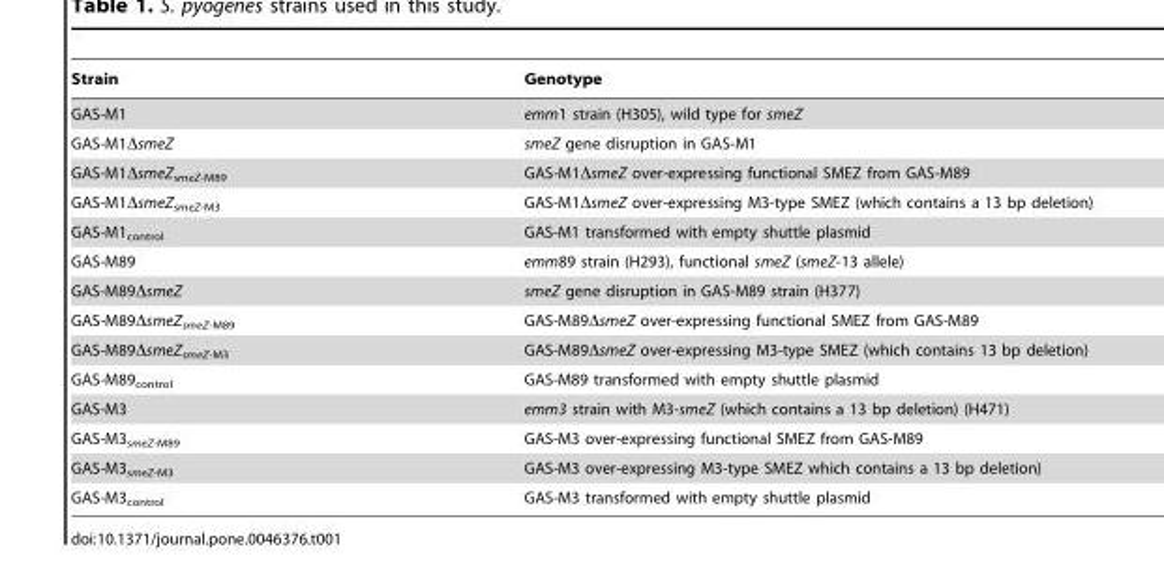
<table><thead><tr><td>Strain</td><td>Genotype</td></tr></thead><tbody><tr><td>GAS-M1</td><td>emm1 strain (H305), wild type for smeZ</td></tr><tr><td>GAS-M1ΔsmeZ</td><td>smeZ gene disruption in GAS-M1</td></tr><tr><td>GAS-M1ΔsmeZ<sub>smeZ-M89</sub></td><td>GAS-M1ΔsmeZ over-expressing functional SMEZ from GAS-M89</td></tr><tr><td>GAS-M1ΔsmeZ<sub>smeZ-M3</sub></td><td>GAS-M1ΔsmeZ over-expressing M3-type SMEZ (which contains a 13 bp deletion)</td></tr><tr><td>GAS-M1<sub>control</sub></td><td>GAS-M1 transformed with empty shuttle plasmid</td></tr><tr><td>GAS-M89</td><td>emm89 strain (H293), functional smeZ (smeZ-13 allele)</td></tr><tr><td>GAS-M89ΔsmeZ</td><td>smeZ gene disruption in GAS-M89 strain (H377)</td></tr><tr><td>GAS-M89ΔsmeZ<sub>smeZ-M89</sub></td><td>GAS-M89ΔsmeZ over-expressing functional SMEZ from GAS-M89</td></tr><tr><td>GAS-M89ΔsmeZ<sub>smeZ-M3</sub></td><td>GAS-M89ΔsmeZ over-expressing M3-type SMEZ (which contains 13 bp deletion)</td></tr><tr><td>GAS-M89<sub>control</sub></td><td>GAS-M89 transformed with empty shuttle plasmid</td></tr><tr><td>GAS-M3</td><td>emm3 strain with M3-smeZ (which contains a 13 bp deletion) (H471)</td></tr><tr><td>GAS-M3<sub>smeZ-M89</sub></td><td>GAS-M3 over-expressing functional SMEZ from GAS-M89</td></tr><tr><td>GAS-M3<sub>smeZ-M3</sub></td><td>GAS-M3 over-expressing M3-type SMEZ which contains a 13 bp deletion)</td></tr><tr><td>GAS-M3<sub>control</sub></td><td>GAS-M3 transformed with empty shuttle plasmid</td></tr></tbody></table>